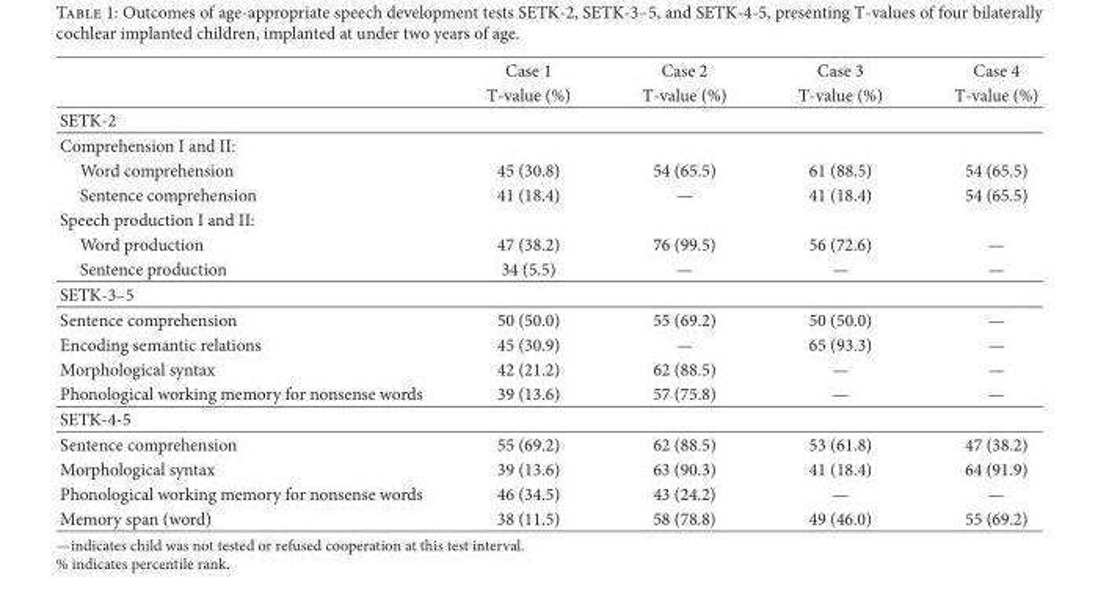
<table><thead><tr><td rowspan="2"></td><td rowspan="2">Case 1 T-value (%)</td><td rowspan="2">Case 2 T-value (%)</td><td rowspan="2">Case 3 T-value (%)</td><td rowspan="2">Case 4 T-value (%)</td></tr><tr></tr></thead><tbody><tr><td colspan="5">SETK-2</td></tr><tr><td colspan="5">Comprehension I and II:</td></tr><tr><td>Word comprehension</td><td>45 (30.8)</td><td>54 (65.5)</td><td>61 (88.5)</td><td>54 (65.5)</td></tr><tr><td>Sentence comprehension</td><td>41 (18.4)</td><td>—</td><td>41 (18.4)</td><td>54 (65.5)</td></tr><tr><td colspan="5">Speech production I and II:</td></tr><tr><td>Word production</td><td>47 (38.2)</td><td>76 (99.5)</td><td>56 (72.6)</td><td>—</td></tr><tr><td>Sentence production</td><td>34 (5.5)</td><td>—</td><td>—</td><td>—</td></tr><tr><td colspan="5">SETK-3–5</td></tr><tr><td>Sentence comprehension</td><td>50 (50.0)</td><td>55 (69.2)</td><td>50 (50.0)</td><td>—</td></tr><tr><td>Encoding semantic relations</td><td>45 (30.9)</td><td>—</td><td>65 (93.3)</td><td>—</td></tr><tr><td>Morphological syntax</td><td>42 (21.2)</td><td>62 (88.5)</td><td>—</td><td>—</td></tr><tr><td>Phonological working memory for nonsense words</td><td>39 (13.6)</td><td>57 (75.8)</td><td>—</td><td>—</td></tr><tr><td colspan="5">SETK-4-5</td></tr><tr><td>Sentence comprehension</td><td>55 (69.2)</td><td>62 (88.5)</td><td>53 (61.8)</td><td>47 (38.2)</td></tr><tr><td>Morphological syntax</td><td>39 (13.6)</td><td>63 (90.3)</td><td>41 (18.4)</td><td>64 (91.9)</td></tr><tr><td>Phonological working memory for nonsense words</td><td>46 (34.5)</td><td>43 (24.2)</td><td>—</td><td>—</td></tr><tr><td>Memory span (word)</td><td>38 (11.5)</td><td>58 (78.8)</td><td>49 (46.0)</td><td>55 (69.2)</td></tr></tbody></table>